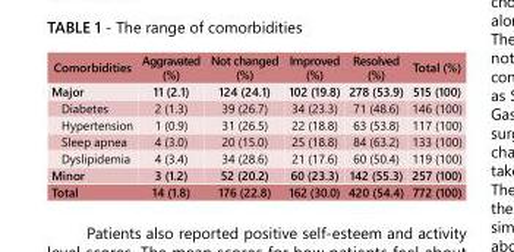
<table><tbody><tr><td>Comorbidities</td><td>Aggravated (%)</td><td>Not changed (%)</td><td>Improved (%)</td><td>Resolved (%)</td><td>Total (%)</td></tr><tr><td>Major</td><td>11 (2.1)</td><td>124 (24.1)</td><td>102 (19.8)</td><td>278 (53.9)</td><td>515 (100)</td></tr><tr><td>Diabetes</td><td>2 (1.3)</td><td>39 (26.7)</td><td>34 (23.3)</td><td>71 (48.6)</td><td>146 (100)</td></tr><tr><td>Hypertension</td><td>1 (0.9)</td><td>31 (26.5)</td><td>22 (18.8)</td><td>63 (53.8)</td><td>117 (100)</td></tr><tr><td>Sleep apnea</td><td>4 (3.0)</td><td>20 (15.0)</td><td>25 (18.8)</td><td>84 (63.2)</td><td>133 (100)</td></tr><tr><td>Dyslipidemia</td><td>4 (3.4)</td><td>34 (28.6)</td><td>21 (17.6)</td><td>60 (50.4)</td><td>119 (100)</td></tr><tr><td>Minor</td><td>3 (1.2)</td><td>52 (20.2)</td><td>60 (23.3)</td><td>142 (55.3)</td><td>257 (100)</td></tr><tr><td>Total</td><td>14 (1.8)</td><td>176 (22.8)</td><td>162 (30.0)</td><td>420 (54.4)</td><td>772 (100)</td></tr></tbody></table>